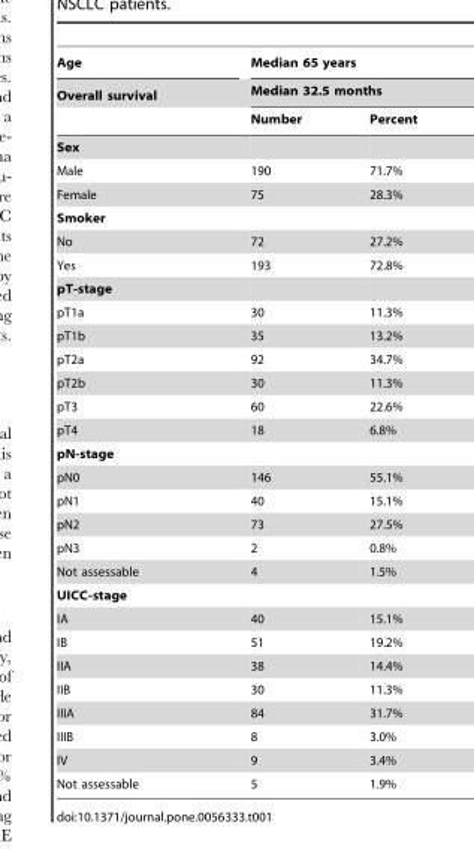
<table><thead><tr><td rowspan="3">Age Overall survival</td><td rowspan="2" colspan="2">Median 65 years Median 32.5 months</td></tr><tr></tr><tr><td>Number</td><td>Percent</td></tr></thead><tbody><tr><td colspan="3">Sex</td></tr><tr><td>Male</td><td>190</td><td>71.7%</td></tr><tr><td>Female</td><td>75</td><td>28.3%</td></tr><tr><td colspan="3">Smoker</td></tr><tr><td>No</td><td>72</td><td>27.2%</td></tr><tr><td>Yes</td><td>193</td><td>72.8%</td></tr><tr><td colspan="3">pT-stage</td></tr><tr><td>pT1a</td><td>30</td><td>11.3%</td></tr><tr><td>pT1b</td><td>35</td><td>13.2%</td></tr><tr><td>pT2a</td><td>92</td><td>34.7%</td></tr><tr><td>pT2b</td><td>30</td><td>11.3%</td></tr><tr><td>pT3</td><td>60</td><td>22.6%</td></tr><tr><td>pT4</td><td>18</td><td>6.8%</td></tr><tr><td colspan="3">pN-stage</td></tr><tr><td>pN0</td><td>146</td><td>55.1%</td></tr><tr><td>pN1</td><td>40</td><td>15.1%</td></tr><tr><td>pN2</td><td>73</td><td>27.5%</td></tr><tr><td>pN3</td><td>2</td><td>0.8%</td></tr><tr><td>Not assessable</td><td>4</td><td>1.5%</td></tr><tr><td colspan="3">UICC-stage</td></tr><tr><td>IA</td><td>40</td><td>15.1%</td></tr><tr><td>IB</td><td>51</td><td>19.2%</td></tr><tr><td>IIA</td><td>38</td><td>14.4%</td></tr><tr><td>IIB</td><td>30</td><td>11.3%</td></tr><tr><td>IIIA</td><td>84</td><td>31.7%</td></tr><tr><td>IIIB</td><td>8</td><td>3.0%</td></tr><tr><td>IV</td><td>9</td><td>3.4%</td></tr><tr><td>Not assessable</td><td>5</td><td>1.9%</td></tr></tbody></table>